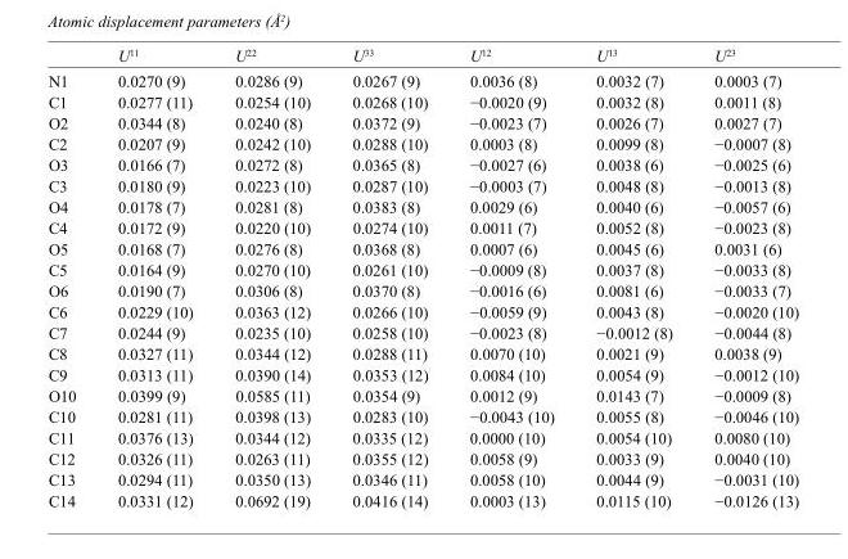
<table><thead><tr><td></td><td>U<sup>11</sup></td><td>U<sup>22</sup></td><td>U<sup>33</sup></td><td>U<sup>12</sup></td><td>U<sup>13</sup></td><td>U<sup>23</sup></td></tr></thead><tbody><tr><td>N1</td><td>0.0270 (9)</td><td>0.0286 (9)</td><td>0.0267 (9)</td><td>0.0036 (8)</td><td>0.0032 (7)</td><td>0.0003 (7)</td></tr><tr><td>C1</td><td>0.0277 (11)</td><td>0.0254 (10)</td><td>0.0268 (10)</td><td>−0.0020 (9)</td><td>0.0032 (8)</td><td>0.0011 (8)</td></tr><tr><td>O2</td><td>0.0344 (8)</td><td>0.0240 (8)</td><td>0.0372 (9)</td><td>−0.0023 (7)</td><td>0.0026 (7)</td><td>0.0027 (7)</td></tr><tr><td>C2</td><td>0.0207 (9)</td><td>0.0242 (10)</td><td>0.0288 (10)</td><td>0.0003 (8)</td><td>0.0099 (8)</td><td>−0.0007 (8)</td></tr><tr><td>O3</td><td>0.0166 (7)</td><td>0.0272 (8)</td><td>0.0365 (8)</td><td>−0.0027 (6)</td><td>0.0038 (6)</td><td>−0.0025 (6)</td></tr><tr><td>C3</td><td>0.0180 (9)</td><td>0.0223 (10)</td><td>0.0287 (10)</td><td>−0.0003 (7)</td><td>0.0048 (8)</td><td>−0.0013 (8)</td></tr><tr><td>O4</td><td>0.0178 (7)</td><td>0.0281 (8)</td><td>0.0383 (8)</td><td>0.0029 (6)</td><td>0.0040 (6)</td><td>−0.0057 (6)</td></tr><tr><td>C4</td><td>0.0172 (9)</td><td>0.0220 (10)</td><td>0.0274 (10)</td><td>0.0011 (7)</td><td>0.0052 (8)</td><td>−0.0023 (8)</td></tr><tr><td>O5</td><td>0.0168 (7)</td><td>0.0276 (8)</td><td>0.0368 (8)</td><td>0.0007 (6)</td><td>0.0045 (6)</td><td>0.0031 (6)</td></tr><tr><td>C5</td><td>0.0164 (9)</td><td>0.0270 (10)</td><td>0.0261 (10)</td><td>−0.0009 (8)</td><td>0.0037 (8)</td><td>−0.0033 (8)</td></tr><tr><td>O6</td><td>0.0190 (7)</td><td>0.0306 (8)</td><td>0.0370 (8)</td><td>−0.0016 (6)</td><td>0.0081 (6)</td><td>−0.0033 (7)</td></tr><tr><td>C6</td><td>0.0229 (10)</td><td>0.0363 (12)</td><td>0.0266 (10)</td><td>−0.0059 (9)</td><td>0.0043 (8)</td><td>−0.0020 (10)</td></tr><tr><td>C7</td><td>0.0244 (9)</td><td>0.0235 (10)</td><td>0.0258 (10)</td><td>−0.0023 (8)</td><td>−0.0012 (8)</td><td>−0.0044 (8)</td></tr><tr><td>C8</td><td>0.0327 (11)</td><td>0.0344 (12)</td><td>0.0288 (11)</td><td>0.0070 (10)</td><td>0.0021 (9)</td><td>0.0038 (9)</td></tr><tr><td>C9</td><td>0.0313 (11)</td><td>0.0390 (14)</td><td>0.0353 (12)</td><td>0.0084 (10)</td><td>0.0054 (9)</td><td>−0.0012 (10)</td></tr><tr><td>O10</td><td>0.0399 (9)</td><td>0.0585 (11)</td><td>0.0354 (9)</td><td>0.0012 (9)</td><td>0.0143 (7)</td><td>−0.0009 (8)</td></tr><tr><td>C10</td><td>0.0281 (11)</td><td>0.0398 (13)</td><td>0.0283 (10)</td><td>−0.0043 (10)</td><td>0.0055 (8)</td><td>−0.0046 (10)</td></tr><tr><td>C11</td><td>0.0376 (13)</td><td>0.0344 (12)</td><td>0.0335 (12)</td><td>0.0000 (10)</td><td>0.0054 (10)</td><td>0.0080 (10)</td></tr><tr><td>C12</td><td>0.0326 (11)</td><td>0.0263 (11)</td><td>0.0355 (12)</td><td>0.0058 (9)</td><td>0.0033 (9)</td><td>0.0040 (10)</td></tr><tr><td>C13</td><td>0.0294 (11)</td><td>0.0350 (13)</td><td>0.0346 (11)</td><td>0.0058 (10)</td><td>0.0044 (9)</td><td>−0.0031 (10)</td></tr><tr><td>C14</td><td>0.0331 (12)</td><td>0.0692 (19)</td><td>0.0416 (14)</td><td>0.0003 (13)</td><td>0.0115 (10)</td><td>−0.0126 (13)</td></tr></tbody></table>